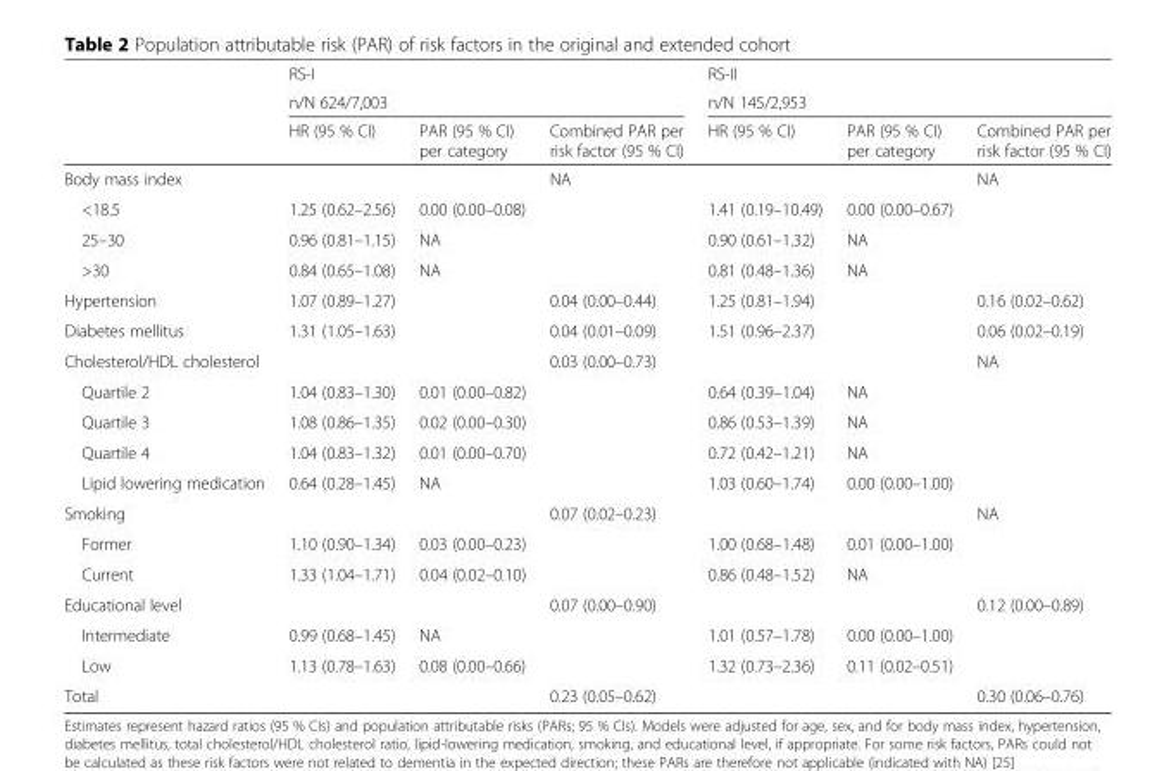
<table><thead><tr><td rowspan="3"></td><td rowspan="2" colspan="3">RS-I n/N 624/7,003</td><td rowspan="2" colspan="3">RS-II n/N 145/2,953</td></tr><tr></tr><tr><td>HR (95 % CI)</td><td>PAR (95 % CI) per category</td><td>Combined PAR per risk factor (95 % CI)</td><td>HR (95 % CI)</td><td>PAR (95 % CI) per category</td><td>Combined PAR per risk factor (95 % CI)</td></tr></thead><tbody><tr><td>Body mass index</td><td></td><td></td><td>NA</td><td></td><td></td><td>NA</td></tr><tr><td>&lt;18.5</td><td>1.25 (0.62–2.56)</td><td>0.00 (0.00–0.08)</td><td></td><td>1.41 (0.19–10.49)</td><td>0.00 (0.00–0.67)</td><td></td></tr><tr><td>25–30</td><td>0.96 (0.81–1.15)</td><td>NA</td><td></td><td>0.90 (0.61–1.32)</td><td>NA</td><td></td></tr><tr><td>&gt;30</td><td>0.84 (0.65–1.08)</td><td>NA</td><td></td><td>0.81 (0.48–1.36)</td><td>NA</td><td></td></tr><tr><td>Hypertension</td><td>1.07 (0.89–1.27)</td><td></td><td>0.04 (0.00–0.44)</td><td>1.25 (0.81–1.94)</td><td></td><td>0.16 (0.02–0.62)</td></tr><tr><td>Diabetes mellitus</td><td>1.31 (1.05–1.63)</td><td></td><td>0.04 (0.01–0.09)</td><td>1.51 (0.96–2.37)</td><td></td><td>0.06 (0.02–0.19)</td></tr><tr><td>Cholesterol/HDL cholesterol</td><td></td><td></td><td>0.03 (0.00–0.73)</td><td></td><td></td><td>NA</td></tr><tr><td>Quartile 2</td><td>1.04 (0.83–1.30)</td><td>0.01 (0.00–0.82)</td><td></td><td>0.64 (0.39–1.04)</td><td>NA</td><td></td></tr><tr><td>Quartile 3</td><td>1.08 (0.86–1.35)</td><td>0.02 (0.00–0.30)</td><td></td><td>0.86 (0.53–1.39)</td><td>NA</td><td></td></tr><tr><td>Quartile 4</td><td>1.04 (0.83–1.32)</td><td>0.01 (0.00–0.70)</td><td></td><td>0.72 (0.42–1.21)</td><td>NA</td><td></td></tr><tr><td>Lipid lowering medication</td><td>0.64 (0.28–1.45)</td><td>NA</td><td></td><td>1.03 (0.60–1.74)</td><td>0.00 (0.00–1.00)</td><td></td></tr><tr><td>Smoking</td><td></td><td></td><td>0.07 (0.02–0.23)</td><td></td><td></td><td>NA</td></tr><tr><td>Former</td><td>1.10 (0.90–1.34)</td><td>0.03 (0.00–0.23)</td><td></td><td>1.00 (0.68–1.48)</td><td>0.01 (0.00–1.00)</td><td></td></tr><tr><td>Current</td><td>1.33 (1.04–1.71)</td><td>0.04 (0.02–0.10)</td><td></td><td>0.86 (0.48–1.52)</td><td>NA</td><td></td></tr><tr><td>Educational level</td><td></td><td></td><td>0.07 (0.00–0.90)</td><td></td><td></td><td>0.12 (0.00–0.89)</td></tr><tr><td>Intermediate</td><td>0.99 (0.68–1.45)</td><td>NA</td><td></td><td>1.01 (0.57–1.78)</td><td>0.00 (0.00–1.00)</td><td></td></tr><tr><td>Low</td><td>1.13 (0.78–1.63)</td><td>0.08 (0.00–0.66)</td><td></td><td>1.32 (0.73–2.36)</td><td>0.11 (0.02–0.51)</td><td></td></tr><tr><td>Total</td><td></td><td></td><td>0.23 (0.05–0.62)</td><td></td><td></td><td>0.30 (0.06–0.76)</td></tr></tbody></table>